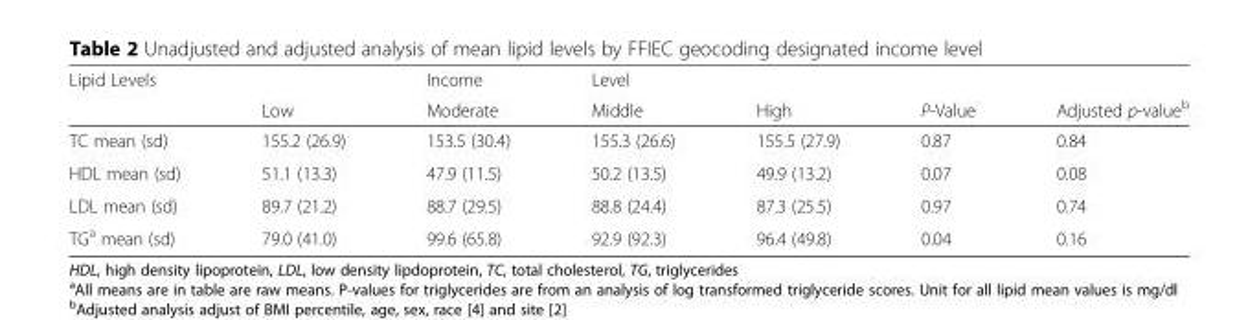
<table><thead><tr><td rowspan="2">Lipid Levels</td><td rowspan="2">Low</td><td rowspan="2">Income Moderate</td><td rowspan="2">Level Middle</td><td rowspan="2">High</td><td rowspan="2">P-Value</td><td rowspan="2">Adjusted p-value<sup>b</sup></td></tr><tr></tr></thead><tbody><tr><td>TC mean (sd)</td><td>155.2 (26.9)</td><td>153.5 (30.4)</td><td>155.3 (26.6)</td><td>155.5 (27.9)</td><td>0.87</td><td>0.84</td></tr><tr><td>HDL mean (sd)</td><td>51.1 (13.3)</td><td>47.9 (11.5)</td><td>50.2 (13.5)</td><td>49.9 (13.2)</td><td>0.07</td><td>0.08</td></tr><tr><td>LDL mean (sd)</td><td>89.7 (21.2)</td><td>88.7 (29.5)</td><td>88.8 (24.4)</td><td>87.3 (25.5)</td><td>0.97</td><td>0.74</td></tr><tr><td>TG<sup>a</sup> mean (sd)</td><td>79.0 (41.0)</td><td>99.6 (65.8)</td><td>92.9 (92.3)</td><td>96.4 (49.8)</td><td>0.04</td><td>0.16</td></tr></tbody></table>